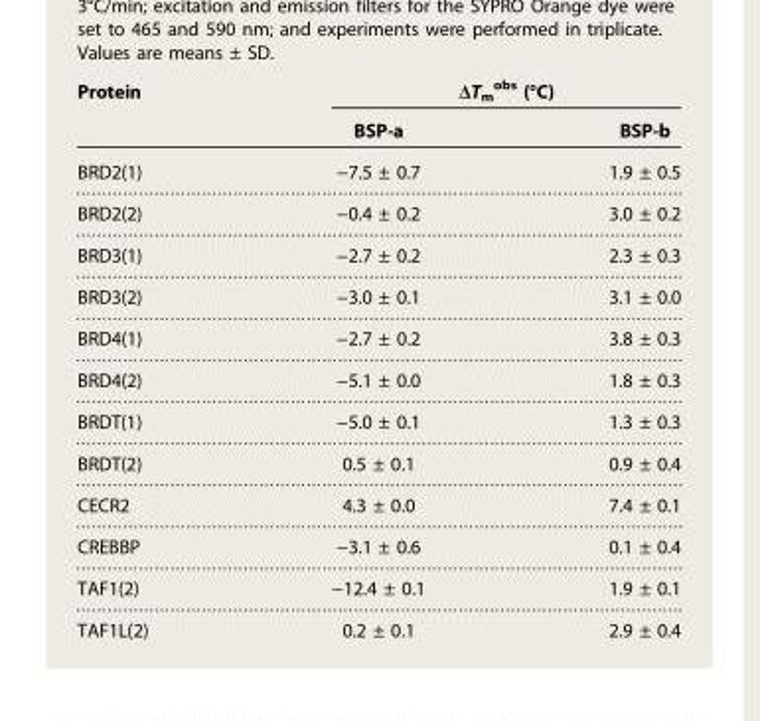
<table><thead><tr><td rowspan="2">Protein</td><td colspan="2">ΔT<sub>m</sub> <sup>obs</sup> (°C)</td></tr><tr><td>BSP-a</td><td>BSP-b</td></tr></thead><tbody><tr><td>BRD2(1)</td><td>−7.5 ± 0.7</td><td>1.9 ± 0.5</td></tr><tr><td>BRD2(2)</td><td>−0.4 ± 0.2</td><td>3.0 ± 0.2</td></tr><tr><td>BRD3(1)</td><td>−2.7 ± 0.2</td><td>2.3 ± 0.3</td></tr><tr><td>BRD3(2)</td><td>−3.0 ± 0.1</td><td>3.1 ± 0.0</td></tr><tr><td>BRD4(1)</td><td>−2.7 ± 0.2</td><td>3.8 ± 0.3</td></tr><tr><td>BRD4(2)</td><td>−5.1 ± 0.0</td><td>1.8 ± 0.3</td></tr><tr><td>BRDT(1)</td><td>−5.0 ± 0.1</td><td>1.3 ± 0.3</td></tr><tr><td>BRDT(2)</td><td>0.5 ± 0.1</td><td>0.9 ± 0.4</td></tr><tr><td>CECR2</td><td>4.3 ± 0.0</td><td>7.4 ± 0.1</td></tr><tr><td>CREBBP</td><td>−3.1 ± 0.6</td><td>0.1 ± 0.4</td></tr><tr><td>TAF1(2)</td><td>−12.4 ± 0.1</td><td>1.9 ± 0.1</td></tr><tr><td>TAF1L(2)</td><td>0.2 ± 0.1</td><td>2.9 ± 0.4</td></tr></tbody></table>